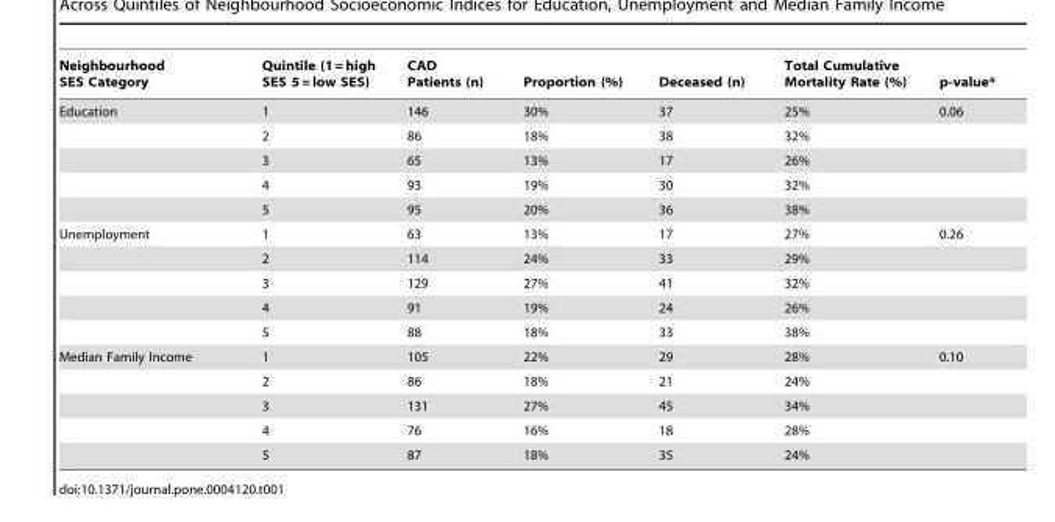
<table><thead><tr><td>Neighbourhood SES Category</td><td>Quintile (1 = high SES 5 = low SES)</td><td>CAD Patients (n)</td><td>Proportion (%)</td><td>Deceased (n)</td><td>Total Cumulative Mortality Rate (%)</td><td>p-value*</td></tr></thead><tbody><tr><td rowspan="5">Education</td><td>1</td><td>146</td><td>30%</td><td>37</td><td>25%</td><td>0.06</td></tr><tr><td>2</td><td>86</td><td>18%</td><td>38</td><td>32%</td><td></td></tr><tr><td>3</td><td>65</td><td>13%</td><td>17</td><td>26%</td><td></td></tr><tr><td>4</td><td>93</td><td>19%</td><td>30</td><td>32%</td><td></td></tr><tr><td>5</td><td>95</td><td>20%</td><td>36</td><td>38%</td><td></td></tr><tr><td rowspan="5">Unemployment</td><td>1</td><td>63</td><td>13%</td><td>17</td><td>27%</td><td>0.26</td></tr><tr><td>2</td><td>114</td><td>24%</td><td>33</td><td>29%</td><td></td></tr><tr><td>3</td><td>129</td><td>27%</td><td>41</td><td>32%</td><td></td></tr><tr><td>4</td><td>91</td><td>19%</td><td>24</td><td>26%</td><td></td></tr><tr><td>5</td><td>88</td><td>18%</td><td>33</td><td>38%</td><td></td></tr><tr><td rowspan="5">Median Family Income</td><td>1</td><td>105</td><td>22%</td><td>29</td><td>28%</td><td>0.10</td></tr><tr><td>2</td><td>86</td><td>18%</td><td>21</td><td>24%</td><td></td></tr><tr><td>3</td><td>131</td><td>27%</td><td>45</td><td>34%</td><td></td></tr><tr><td>4</td><td>76</td><td>16%</td><td>18</td><td>28%</td><td></td></tr><tr><td>5</td><td>87</td><td>18%</td><td>35</td><td>24%</td><td></td></tr></tbody></table>